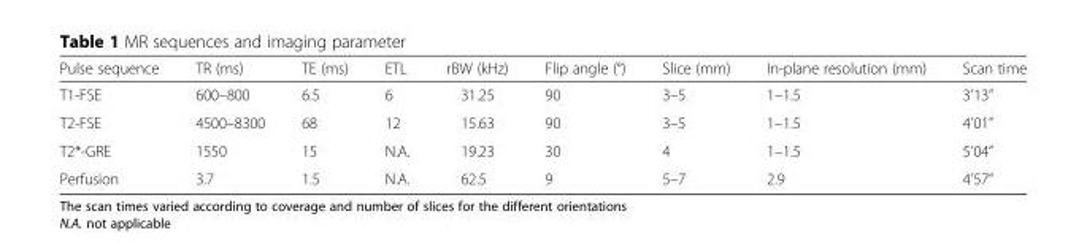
<table><thead><tr><td>Pulse sequence</td><td>TR (ms)</td><td>TE (ms)</td><td>ETL</td><td>rBW (kHz)</td><td>Flip angle (°)</td><td>Slice (mm)</td><td>In-plane resolution (mm)</td><td>Scan time</td></tr></thead><tbody><tr><td>T1-FSE</td><td>600–800</td><td>6.5</td><td>6</td><td>31.25</td><td>90</td><td>3–5</td><td>1–1.5</td><td>3’13”</td></tr><tr><td>T2-FSE</td><td>4500–8300</td><td>68</td><td>12</td><td>15.63</td><td>90</td><td>3–5</td><td>1–1.5</td><td>4’01”</td></tr><tr><td>T2*-GRE</td><td>1550</td><td>15</td><td>N.A.</td><td>19.23</td><td>30</td><td>4</td><td>1–1.5</td><td>5’04”</td></tr><tr><td>Perfusion</td><td>3.7</td><td>1.5</td><td>N.A.</td><td>62.5</td><td>9</td><td>5–7</td><td>2.9</td><td>4’57”</td></tr></tbody></table>